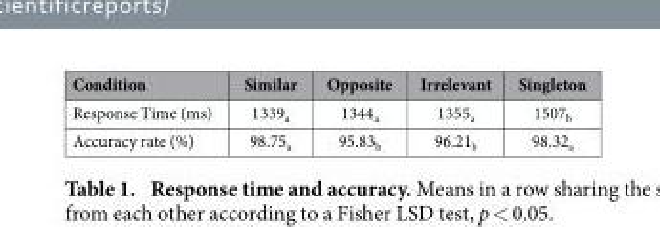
<table><thead><tr><td>Condition</td><td>Similar</td><td>Opposite</td><td>Irrelevant</td><td>Singleton</td></tr></thead><tbody><tr><td>Response Time (ms)</td><td>1339<sub>a</sub></td><td>1344<sub>a</sub></td><td>1355<sub>a</sub></td><td>1507<sub>b</sub></td></tr><tr><td>Accuracy rate (%)</td><td>98.75<sub>a</sub></td><td>95.83<sub>b</sub></td><td>96.21<sub>b</sub></td><td>98.32<sub>a</sub></td></tr></tbody></table>